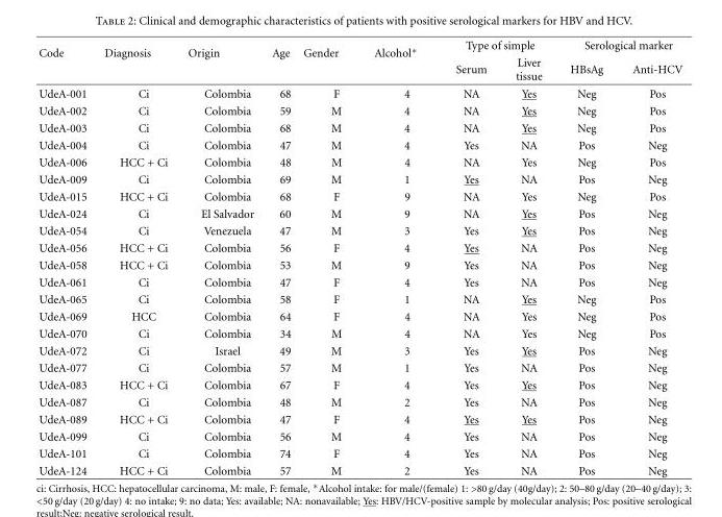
<table><thead><tr><td rowspan="2">Code</td><td rowspan="2">Diagnosis</td><td rowspan="2">Origin</td><td rowspan="2">Age</td><td rowspan="2">Gender</td><td rowspan="2">Alcohol∗</td><td colspan="2">Type of simple</td><td colspan="2">Serological marker</td></tr><tr><td>Serum</td><td>Liver tissue</td><td>HBsAg</td><td>Anti-HCV</td></tr></thead><tbody><tr><td>UdeA-001</td><td>Ci</td><td>Colombia</td><td>68</td><td>F</td><td>4</td><td>NA</td><td>Yes</td><td>Neg</td><td>Pos</td></tr><tr><td>UdeA-002</td><td>Ci</td><td>Colombia</td><td>59</td><td>M</td><td>4</td><td>NA</td><td>Yes</td><td>Neg</td><td>Pos</td></tr><tr><td>UdeA-003</td><td>Ci</td><td>Colombia</td><td>68</td><td>M</td><td>4</td><td>NA</td><td>Yes</td><td>Neg</td><td>Pos</td></tr><tr><td>UdeA-004</td><td>Ci</td><td>Colombia</td><td>47</td><td>M</td><td>4</td><td>Yes</td><td>NA</td><td>Pos</td><td>Neg</td></tr><tr><td>UdeA-006</td><td>HCC + Ci</td><td>Colombia</td><td>48</td><td>M</td><td>4</td><td>NA</td><td>Yes</td><td>Neg</td><td>Pos</td></tr><tr><td>UdeA-009</td><td>Ci</td><td>Colombia</td><td>69</td><td>M</td><td>1</td><td>Yes</td><td>NA</td><td>Pos</td><td>Neg</td></tr><tr><td>UdeA-015</td><td>HCC + Ci</td><td>Colombia</td><td>68</td><td>F</td><td>9</td><td>NA</td><td>Yes</td><td>Neg</td><td>Pos</td></tr><tr><td>UdeA-024</td><td>Ci</td><td>El Salvador</td><td>60</td><td>M</td><td>9</td><td>NA</td><td>Yes</td><td>Pos</td><td>Neg</td></tr><tr><td>UdeA-054</td><td>Ci</td><td>Venezuela</td><td>47</td><td>M</td><td>3</td><td>Yes</td><td>Yes</td><td>Pos</td><td>Neg</td></tr><tr><td>UdeA-056</td><td>HCC + Ci</td><td>Colombia</td><td>56</td><td>F</td><td>4</td><td>Yes</td><td>NA</td><td>Pos</td><td>Neg</td></tr><tr><td>UdeA-058</td><td>HCC + Ci</td><td>Colombia</td><td>53</td><td>M</td><td>9</td><td>Yes</td><td>NA</td><td>Pos</td><td>Neg</td></tr><tr><td>UdeA-061</td><td>Ci</td><td>Colombia</td><td>47</td><td>F</td><td>4</td><td>Yes</td><td>NA</td><td>Pos</td><td>Neg</td></tr><tr><td>UdeA-065</td><td>Ci</td><td>Colombia</td><td>58</td><td>F</td><td>1</td><td>NA</td><td>Yes</td><td>Neg</td><td>Pos</td></tr><tr><td>UdeA-069</td><td>HCC</td><td>Colombia</td><td>64</td><td>F</td><td>4</td><td>NA</td><td>Yes</td><td>Neg</td><td>Pos</td></tr><tr><td>UdeA-070</td><td>Ci</td><td>Colombia</td><td>34</td><td>M</td><td>4</td><td>NA</td><td>Yes</td><td>Neg</td><td>Pos</td></tr><tr><td>UdeA-072</td><td>Ci</td><td>Israel</td><td>49</td><td>M</td><td>3</td><td>Yes</td><td>Yes</td><td>Pos</td><td>Neg</td></tr><tr><td>UdeA-077</td><td>Ci</td><td>Colombia</td><td>57</td><td>M</td><td>1</td><td>Yes</td><td>NA</td><td>Pos</td><td>Neg</td></tr><tr><td>UdeA-083</td><td>HCC + Ci</td><td>Colombia</td><td>67</td><td>F</td><td>4</td><td>Yes</td><td>Yes</td><td>Pos</td><td>Neg</td></tr><tr><td>UdeA-087</td><td>Ci</td><td>Colombia</td><td>48</td><td>M</td><td>2</td><td>Yes</td><td>NA</td><td>Pos</td><td>Neg</td></tr><tr><td>UdeA-089</td><td>HCC + Ci</td><td>Colombia</td><td>47</td><td>F</td><td>4</td><td>Yes</td><td>Yes</td><td>Pos</td><td>Neg</td></tr><tr><td>UdeA-099</td><td>Ci</td><td>Colombia</td><td>56</td><td>M</td><td>4</td><td>Yes</td><td>NA</td><td>Pos</td><td>Neg</td></tr><tr><td>UdeA-101</td><td>Ci</td><td>Colombia</td><td>74</td><td>F</td><td>4</td><td>Yes</td><td>NA</td><td>Pos</td><td>Neg</td></tr><tr><td>UdeA-124</td><td>HCC + Ci</td><td>Colombia</td><td>57</td><td>M</td><td>2</td><td>Yes</td><td>NA</td><td>Pos</td><td>Neg</td></tr></tbody></table>